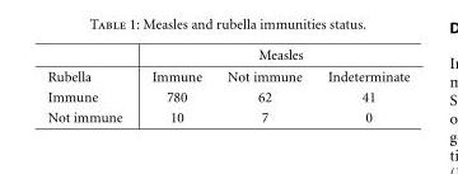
<table><thead><tr><td rowspan="2">Rubella</td><td colspan="3">Measles</td></tr><tr><td>Immune</td><td>Not immune</td><td>Indeterminate</td></tr></thead><tbody><tr><td>Immune</td><td>780</td><td>62</td><td>41</td></tr><tr><td>Not immune</td><td>10</td><td>7</td><td>0</td></tr></tbody></table>